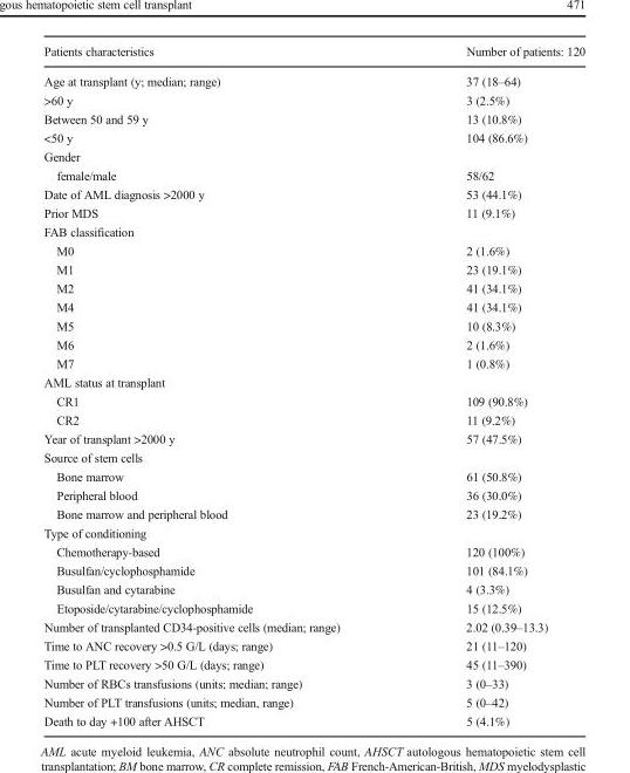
<table><thead><tr><td>Patients characteristics</td><td>Number of patients: 120</td></tr></thead><tbody><tr><td>Age at transplant (y; median; range)</td><td>37 (18–64)</td></tr><tr><td>&gt;60 y</td><td>3 (2.5%)</td></tr><tr><td>Between 50 and 59 y</td><td>13 (10.8%)</td></tr><tr><td>&lt;50 y</td><td>104 (86.6%)</td></tr><tr><td colspan="2">Gender</td></tr><tr><td>female/male</td><td>58/62</td></tr><tr><td>Date of AML diagnosis &gt;2000 y</td><td>53 (44.1%)</td></tr><tr><td>Prior MDS</td><td>11 (9.1%)</td></tr><tr><td colspan="2">FAB classification</td></tr><tr><td>M0</td><td>2 (1.6%)</td></tr><tr><td>M1</td><td>23 (19.1%)</td></tr><tr><td>M2</td><td>41 (34.1%)</td></tr><tr><td>M4</td><td>41 (34.1%)</td></tr><tr><td>M5</td><td>10 (8.3%)</td></tr><tr><td>M6</td><td>2 (1.6%)</td></tr><tr><td>M7</td><td>1 (0.8%)</td></tr><tr><td colspan="2">AML status at transplant</td></tr><tr><td>CR1</td><td>109 (90.8%)</td></tr><tr><td>CR2</td><td>11 (9.2%)</td></tr><tr><td>Year of transplant &gt;2000 y</td><td>57 (47.5%)</td></tr><tr><td colspan="2">Source of stem cells</td></tr><tr><td>Bone marrow</td><td>61 (50.8%)</td></tr><tr><td>Peripheral blood</td><td>36 (30.0%)</td></tr><tr><td>Bone marrow and peripheral blood</td><td>23 (19.2%)</td></tr><tr><td colspan="2">Type of conditioning</td></tr><tr><td>Chemotherapy-based</td><td>120 (100%)</td></tr><tr><td>Busulfan/cyclophosphamide</td><td>101 (84.1%)</td></tr><tr><td>Busulfan and cytarabine</td><td>4 (3.3%)</td></tr><tr><td>Etoposide/cytarabine/cyclophosphamide</td><td>15 (12.5%)</td></tr><tr><td>Number of transplanted CD34-positive cells (median; range)</td><td>2.02 (0.39–13.3)</td></tr><tr><td>Time to ANC recovery &gt;0.5 G/L (days; range)</td><td>21 (11–120)</td></tr><tr><td>Time to PLT recovery &gt;50 G/L (days; range)</td><td>45 (11–390)</td></tr><tr><td>Number of RBCs transfusions (units; median; range)</td><td>3 (0–33)</td></tr><tr><td>Number of PLT transfusions (units; median, range)</td><td>5 (0–42)</td></tr><tr><td>Death to day +100 after AHSCT</td><td>5 (4.1%)</td></tr></tbody></table>